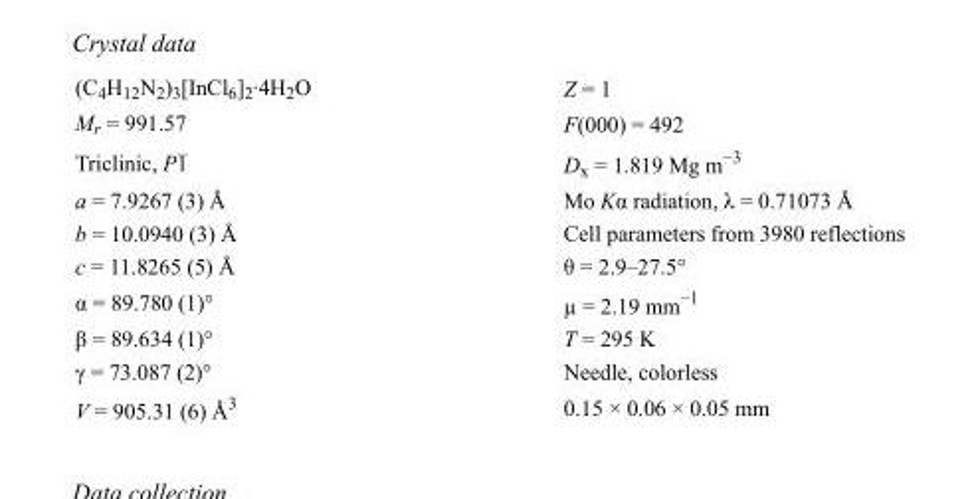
<table><tbody><tr><td>(C<sub>4</sub>H<sub>12</sub>N<sub>2</sub>)<sub>3</sub>[InCl<sub>6</sub>]<sub>2</sub>·4H<sub>2</sub>O</td><td>Z = 1</td></tr><tr><td>M<sub>r</sub> = 991.57</td><td>F(000) = 492</td></tr><tr><td>Triclinic, P1</td><td>D<sub>x</sub> = 1.819 Mg m<sup>−3</sup></td></tr><tr><td>a = 7.9267 (3) Å</td><td>Mo Kα radiation, λ = 0.71073 Å</td></tr><tr><td>b = 10.0940 (3) Å</td><td>Cell parameters from 3980 reflections</td></tr><tr><td>c = 11.8265 (5) Å</td><td>θ = 2.9–27.5°</td></tr><tr><td>α = 89.780 (1)°</td><td>µ = 2.19 mm<sup>−1</sup></td></tr><tr><td>β = 89.634 (1)°</td><td>T = 295 K</td></tr><tr><td>γ = 73.087 (2)°</td><td>Needle, colorless</td></tr><tr><td>V = 905.31 (6) Å<sup>3</sup></td><td>0.15 × 0.06 × 0.05 mm</td></tr></tbody></table>